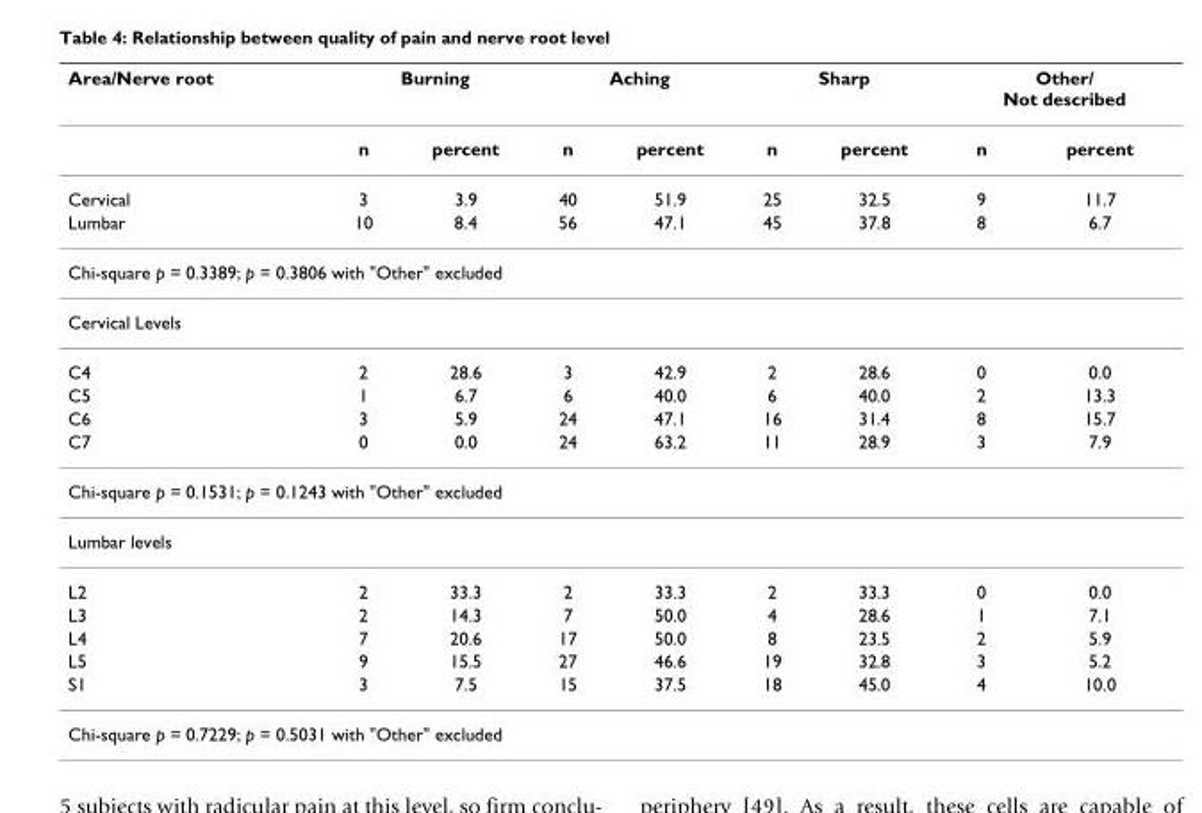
<table><thead><tr><td rowspan="2">Area/Nerve root</td><td colspan="2">Burning</td><td colspan="2">Aching</td><td colspan="2">Sharp</td><td colspan="2">Other/ Not described</td></tr><tr><td>n</td><td>percent</td><td>n</td><td>percent</td><td>n</td><td>percent</td><td>n</td><td>percent</td></tr></thead><tbody><tr><td>Cervical</td><td>3</td><td>3.9</td><td>40</td><td>51.9</td><td>25</td><td>32.5</td><td>9</td><td>11.7</td></tr><tr><td>Lumbar</td><td>10</td><td>8.4</td><td>56</td><td>47.1</td><td>45</td><td>37.8</td><td>8</td><td>6.7</td></tr><tr><td colspan="9">Chi-square p = 0.3389; p = 0.3806 with &quot;Other&quot; excluded</td></tr><tr><td colspan="9">Cervical Levels</td></tr><tr><td>C4</td><td>2</td><td>28.6</td><td>3</td><td>42.9</td><td>2</td><td>28.6</td><td>0</td><td>0.0</td></tr><tr><td>C5</td><td>1</td><td>6.7</td><td>6</td><td>40.0</td><td>6</td><td>40.0</td><td>2</td><td>13.3</td></tr><tr><td>C6</td><td>3</td><td>5.9</td><td>24</td><td>47.1</td><td>16</td><td>31.4</td><td>8</td><td>15.7</td></tr><tr><td>C7</td><td>0</td><td>0.0</td><td>24</td><td>63.2</td><td>11</td><td>28.9</td><td>3</td><td>7.9</td></tr><tr><td colspan="9">Chi-square p = 0.1531; p = 0.1243 with &quot;Other&quot; excluded</td></tr><tr><td colspan="9">Lumbar levels</td></tr><tr><td>L2</td><td>2</td><td>33.3</td><td>2</td><td>33.3</td><td>2</td><td>33.3</td><td>0</td><td>0.0</td></tr><tr><td>L3</td><td>2</td><td>14.3</td><td>7</td><td>50.0</td><td>4</td><td>28.6</td><td>1</td><td>7.1</td></tr><tr><td>L4</td><td>7</td><td>20.6</td><td>17</td><td>50.0</td><td>8</td><td>23.5</td><td>2</td><td>5.9</td></tr><tr><td>L5</td><td>9</td><td>15.5</td><td>27</td><td>46.6</td><td>19</td><td>32.8</td><td>3</td><td>5.2</td></tr><tr><td>S1</td><td>3</td><td>7.5</td><td>15</td><td>37.5</td><td>18</td><td>45.0</td><td>4</td><td>10.0</td></tr><tr><td colspan="9">Chi-square p = 0.7229; p = 0.5031 with &quot;Other&quot; excluded</td></tr></tbody></table>